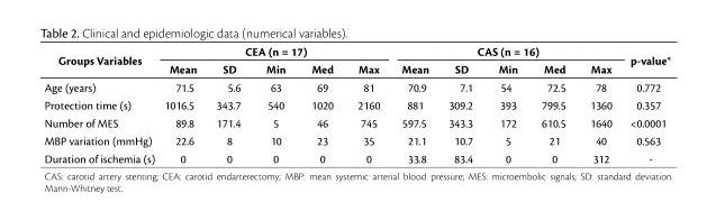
<table><thead><tr><td rowspan="2">Groups Variables</td><td colspan="5">CEA (n = 17)</td><td colspan="5">CAS (n = 16)</td><td rowspan="2">p-value*</td></tr><tr><td>Mean</td><td>SD</td><td>Min</td><td>Med</td><td>Max</td><td>Mean</td><td>SD</td><td>Min</td><td>Med</td><td>Max</td></tr></thead><tbody><tr><td>Age (years)</td><td>71.5</td><td>5.6</td><td>63</td><td>69</td><td>81</td><td>70.9</td><td>7.1</td><td>54</td><td>72.5</td><td>78</td><td>0.772</td></tr><tr><td>Protection time (s)</td><td>1016.5</td><td>343.7</td><td>540</td><td>1020</td><td>2160</td><td>881</td><td>309.2</td><td>393</td><td>799.5</td><td>1360</td><td>0.357</td></tr><tr><td>Number of MES</td><td>89.8</td><td>171.4</td><td>5</td><td>46</td><td>745</td><td>597.5</td><td>343.3</td><td>172</td><td>610.5</td><td>1640</td><td>&lt;0.0001</td></tr><tr><td>MBP variation (mmHg)</td><td>22.6</td><td>8</td><td>10</td><td>23</td><td>35</td><td>21.1</td><td>10.7</td><td>5</td><td>21</td><td>40</td><td>0.563</td></tr><tr><td>Duration of ischemia (s)</td><td>0</td><td>0</td><td>0</td><td>0</td><td>0</td><td>33.8</td><td>83.4</td><td>0</td><td>0</td><td>312</td><td>-</td></tr></tbody></table>